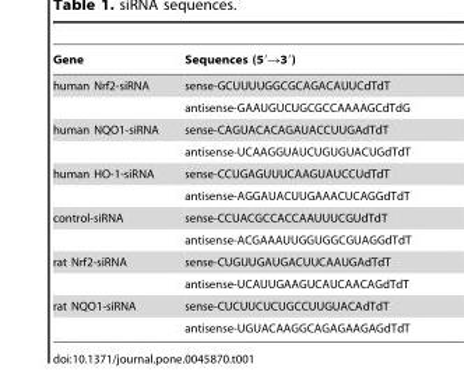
<table><thead><tr><td>Gene</td><td>Sequences (5′→3′)</td></tr></thead><tbody><tr><td rowspan="2">human Nrf2-siRNA</td><td>sense-GCUUUUGGCGCAGACAUUCdTdT</td></tr><tr><td>antisense-GAAUGUCUGCGCCAAAAGCdTdG</td></tr><tr><td rowspan="2">human NQO1-siRNA</td><td>sense-CAGUACACAGAUACCUUGAdTdT</td></tr><tr><td>antisense-UCAAGGUAUCUGUGUACUGdTdT</td></tr><tr><td rowspan="2">human HO-1-siRNA</td><td>sense-CCUGAGUUUCAAGUAUCCUdTdT</td></tr><tr><td>antisense-AGGAUACUUGAAACUCAGGdTdT</td></tr><tr><td rowspan="2">control-siRNA</td><td>sense-CCUACGCCACCAAUUUCGUdTdT</td></tr><tr><td>antisense-ACGAAAUUGGUGGCGUAGGdTdT</td></tr><tr><td rowspan="2">rat Nrf2-siRNA</td><td>sense-CUGUUGAUGACUUCAAUGAdTdT</td></tr><tr><td>antisense-UCAUUGAAGUCAUCAACAGdTdT</td></tr><tr><td rowspan="2">rat NQO1-siRNA</td><td>sense-CUCUUCUCUGCCUUGUACAdTdT</td></tr><tr><td>antisense-UGUACAAGGCAGAGAAGAGdTdT</td></tr></tbody></table>